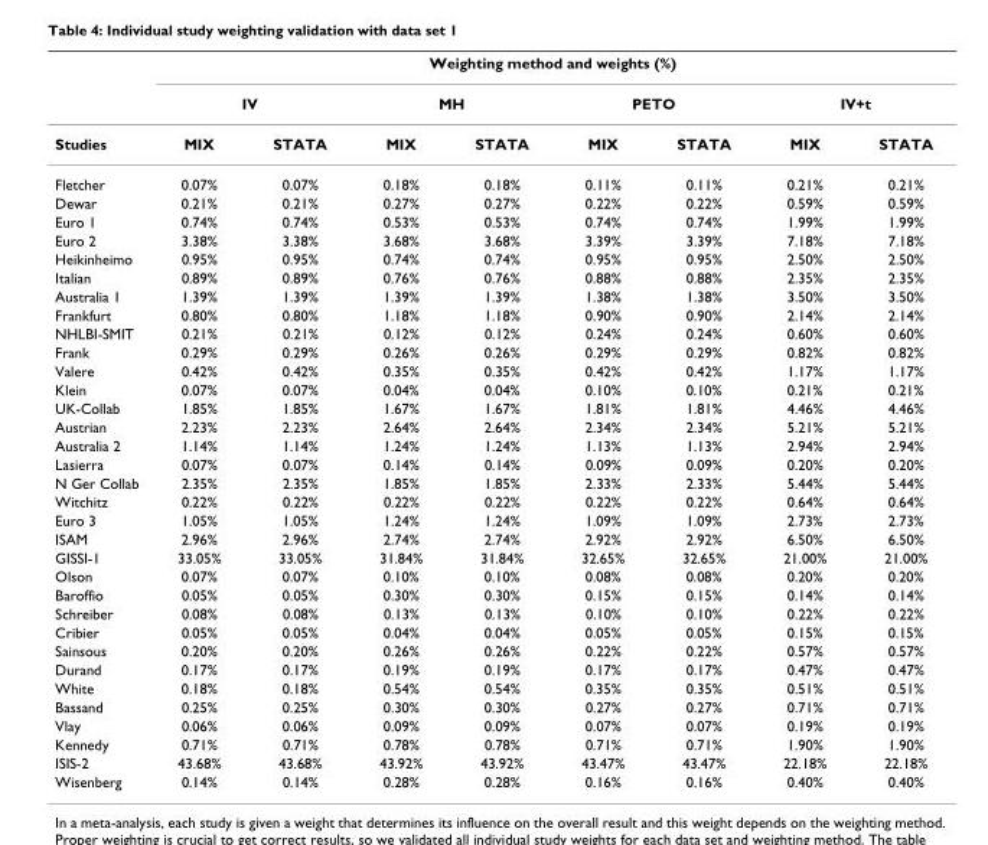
<table><thead><tr><td rowspan="3">Studies</td><td colspan="8">Weighting method and weights (%)</td></tr><tr><td colspan="2">IV</td><td colspan="2">MH</td><td colspan="2">PETO</td><td colspan="2">IV+t</td></tr><tr><td>MIX</td><td>STATA</td><td>MIX</td><td>STATA</td><td>MIX</td><td>STATA</td><td>MIX</td><td>STATA</td></tr></thead><tbody><tr><td>Fletcher</td><td>0.07%</td><td>0.07%</td><td>0.18%</td><td>0.18%</td><td>0.11%</td><td>0.11%</td><td>0.21%</td><td>0.21%</td></tr><tr><td>Dewar</td><td>0.21%</td><td>0.21%</td><td>0.27%</td><td>0.27%</td><td>0.22%</td><td>0.22%</td><td>0.59%</td><td>0.59%</td></tr><tr><td>Euro 1</td><td>0.74%</td><td>0.74%</td><td>0.53%</td><td>0.53%</td><td>0.74%</td><td>0.74%</td><td>1.99%</td><td>1.99%</td></tr><tr><td>Euro 2</td><td>3.38%</td><td>3.38%</td><td>3.68%</td><td>3.68%</td><td>3.39%</td><td>3.39%</td><td>7.18%</td><td>7.18%</td></tr><tr><td>Heikinheimo</td><td>0.95%</td><td>0.95%</td><td>0.74%</td><td>0.74%</td><td>0.95%</td><td>0.95%</td><td>2.50%</td><td>2.50%</td></tr><tr><td>Italian</td><td>0.89%</td><td>0.89%</td><td>0.76%</td><td>0.76%</td><td>0.88%</td><td>0.88%</td><td>2.35%</td><td>2.35%</td></tr><tr><td>Australia 1</td><td>1.39%</td><td>1.39%</td><td>1.39%</td><td>1.39%</td><td>1.38%</td><td>1.38%</td><td>3.50%</td><td>3.50%</td></tr><tr><td>Frankfurt</td><td>0.80%</td><td>0.80%</td><td>1.18%</td><td>1.18%</td><td>0.90%</td><td>0.90%</td><td>2.14%</td><td>2.14%</td></tr><tr><td>NHLBI-SMIT</td><td>0.21%</td><td>0.21%</td><td>0.12%</td><td>0.12%</td><td>0.24%</td><td>0.24%</td><td>0.60%</td><td>0.60%</td></tr><tr><td>Frank</td><td>0.29%</td><td>0.29%</td><td>0.26%</td><td>0.26%</td><td>0.29%</td><td>0.29%</td><td>0.82%</td><td>0.82%</td></tr><tr><td>Valere</td><td>0.42%</td><td>0.42%</td><td>0.35%</td><td>0.35%</td><td>0.42%</td><td>0.42%</td><td>1.17%</td><td>1.17%</td></tr><tr><td>Klein</td><td>0.07%</td><td>0.07%</td><td>0.04%</td><td>0.04%</td><td>0.10%</td><td>0.10%</td><td>0.21%</td><td>0.21%</td></tr><tr><td>UK-Collab</td><td>1.85%</td><td>1.85%</td><td>1.67%</td><td>1.67%</td><td>1.81%</td><td>1.81%</td><td>4.46%</td><td>4.46%</td></tr><tr><td>Austrian</td><td>2.23%</td><td>2.23%</td><td>2.64%</td><td>2.64%</td><td>2.34%</td><td>2.34%</td><td>5.21%</td><td>5.21%</td></tr><tr><td>Australia 2</td><td>1.14%</td><td>1.14%</td><td>1.24%</td><td>1.24%</td><td>1.13%</td><td>1.13%</td><td>2.94%</td><td>2.94%</td></tr><tr><td>Lasierra</td><td>0.07%</td><td>0.07%</td><td>0.14%</td><td>0.14%</td><td>0.09%</td><td>0.09%</td><td>0.20%</td><td>0.20%</td></tr><tr><td>N Ger Collab</td><td>2.35%</td><td>2.35%</td><td>1.85%</td><td>1.85%</td><td>2.33%</td><td>2.33%</td><td>5.44%</td><td>5.44%</td></tr><tr><td>Witchitz</td><td>0.22%</td><td>0.22%</td><td>0.22%</td><td>0.22%</td><td>0.22%</td><td>0.22%</td><td>0.64%</td><td>0.64%</td></tr><tr><td>Euro 3</td><td>1.05%</td><td>1.05%</td><td>1.24%</td><td>1.24%</td><td>1.09%</td><td>1.09%</td><td>2.73%</td><td>2.73%</td></tr><tr><td>ISAM</td><td>2.96%</td><td>2.96%</td><td>2.74%</td><td>2.74%</td><td>2.92%</td><td>2.92%</td><td>6.50%</td><td>6.50%</td></tr><tr><td>GISSI-1</td><td>33.05%</td><td>33.05%</td><td>31.84%</td><td>31.84%</td><td>32.65%</td><td>32.65%</td><td>21.00%</td><td>21.00%</td></tr><tr><td>Olson</td><td>0.07%</td><td>0.07%</td><td>0.10%</td><td>0.10%</td><td>0.08%</td><td>0.08%</td><td>0.20%</td><td>0.20%</td></tr><tr><td>Baroffio</td><td>0.05%</td><td>0.05%</td><td>0.30%</td><td>0.30%</td><td>0.15%</td><td>0.15%</td><td>0.14%</td><td>0.14%</td></tr><tr><td>Schreiber</td><td>0.08%</td><td>0.08%</td><td>0.13%</td><td>0.13%</td><td>0.10%</td><td>0.10%</td><td>0.22%</td><td>0.22%</td></tr><tr><td>Cribier</td><td>0.05%</td><td>0.05%</td><td>0.04%</td><td>0.04%</td><td>0.05%</td><td>0.05%</td><td>0.15%</td><td>0.15%</td></tr><tr><td>Sainsous</td><td>0.20%</td><td>0.20%</td><td>0.26%</td><td>0.26%</td><td>0.22%</td><td>0.22%</td><td>0.57%</td><td>0.57%</td></tr><tr><td>Durand</td><td>0.17%</td><td>0.17%</td><td>0.19%</td><td>0.19%</td><td>0.17%</td><td>0.17%</td><td>0.47%</td><td>0.47%</td></tr><tr><td>White</td><td>0.18%</td><td>0.18%</td><td>0.54%</td><td>0.54%</td><td>0.35%</td><td>0.35%</td><td>0.51%</td><td>0.51%</td></tr><tr><td>Bassand</td><td>0.25%</td><td>0.25%</td><td>0.30%</td><td>0.30%</td><td>0.27%</td><td>0.27%</td><td>0.71%</td><td>0.71%</td></tr><tr><td>Vlay</td><td>0.06%</td><td>0.06%</td><td>0.09%</td><td>0.09%</td><td>0.07%</td><td>0.07%</td><td>0.19%</td><td>0.19%</td></tr><tr><td>Kennedy</td><td>0.71%</td><td>0.71%</td><td>0.78%</td><td>0.78%</td><td>0.71%</td><td>0.71%</td><td>1.90%</td><td>1.90%</td></tr><tr><td>ISIS-2</td><td>43.68%</td><td>43.68%</td><td>43.92%</td><td>43.92%</td><td>43.47%</td><td>43.47%</td><td>22.18%</td><td>22.18%</td></tr><tr><td>Wisenberg</td><td>0.14%</td><td>0.14%</td><td>0.28%</td><td>0.28%</td><td>0.16%</td><td>0.16%</td><td>0.40%</td><td>0.40%</td></tr></tbody></table>